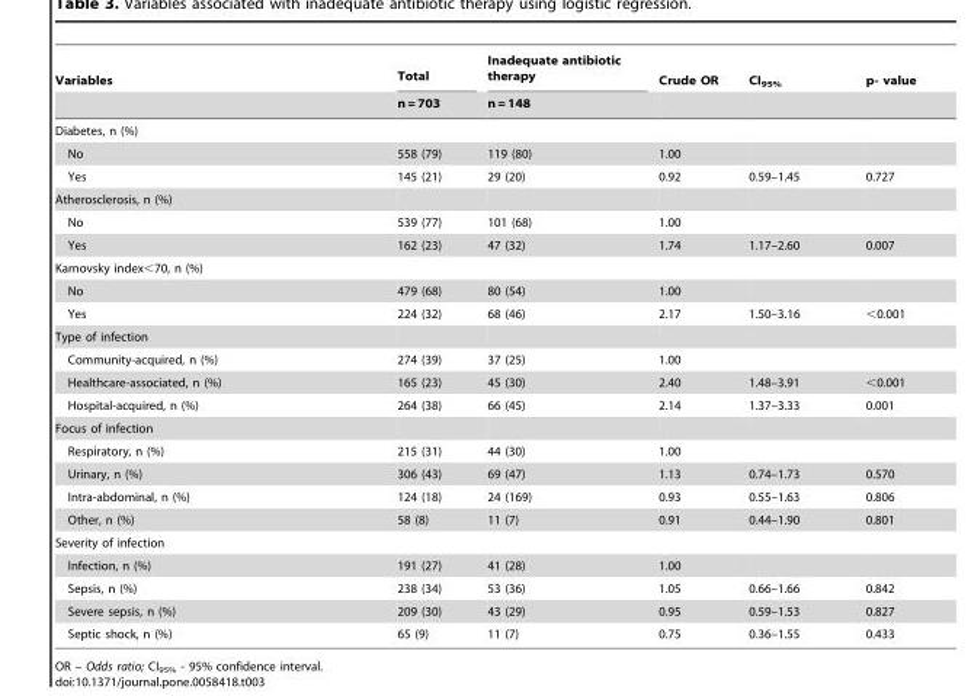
<table><thead><tr><td rowspan="2">Variables</td><td rowspan="2">Total n = 703</td><td rowspan="2">Inadequate antibiotic therapy n = 148</td><td rowspan="2">Crude OR</td><td rowspan="2">CI<sub>95%</sub></td><td rowspan="2">p- value</td></tr><tr></tr></thead><tbody><tr><td colspan="6">Diabetes, n (%)</td></tr><tr><td>No</td><td>558 (79)</td><td>119 (80)</td><td>1.00</td><td></td><td></td></tr><tr><td>Yes</td><td>145 (21)</td><td>29 (20)</td><td>0.92</td><td>0.59–1.45</td><td>0.727</td></tr><tr><td colspan="6">Atherosclerosis, n (%)</td></tr><tr><td>No</td><td>539 (77)</td><td>101 (68)</td><td>1.00</td><td></td><td></td></tr><tr><td>Yes</td><td>162 (23)</td><td>47 (32)</td><td>1.74</td><td>1.17–2.60</td><td>0.007</td></tr><tr><td colspan="6">Karnovsky index&lt;70, n (%)</td></tr><tr><td>No</td><td>479 (68)</td><td>80 (54)</td><td>1.00</td><td></td><td></td></tr><tr><td>Yes</td><td>224 (32)</td><td>68 (46)</td><td>2.17</td><td>1.50–3.16</td><td>&lt;0.001</td></tr><tr><td colspan="6">Type of infection</td></tr><tr><td>Community-acquired, n (%)</td><td>274 (39)</td><td>37 (25)</td><td>1.00</td><td></td><td></td></tr><tr><td>Healthcare-associated, n (%)</td><td>165 (23)</td><td>45 (30)</td><td>2.40</td><td>1.48–3.91</td><td>&lt;0.001</td></tr><tr><td>Hospital-acquired, n (%)</td><td>264 (38)</td><td>66 (45)</td><td>2.14</td><td>1.37–3.33</td><td>0.001</td></tr><tr><td colspan="6">Focus of infection</td></tr><tr><td>Respiratory, n (%)</td><td>215 (31)</td><td>44 (30)</td><td>1.00</td><td></td><td></td></tr><tr><td>Urinary, n (%)</td><td>306 (43)</td><td>69 (47)</td><td>1.13</td><td>0.74–1.73</td><td>0.570</td></tr><tr><td>Intra-abdominal, n (%)</td><td>124 (18)</td><td>24 (169)</td><td>0.93</td><td>0.55–1.63</td><td>0.806</td></tr><tr><td>Other, n (%)</td><td>58 (8)</td><td>11 (7)</td><td>0.91</td><td>0.44–1.90</td><td>0.801</td></tr><tr><td colspan="6">Severity of infection</td></tr><tr><td>Infection, n (%)</td><td>191 (27)</td><td>41 (28)</td><td>1.00</td><td></td><td></td></tr><tr><td>Sepsis, n (%)</td><td>238 (34)</td><td>53 (36)</td><td>1.05</td><td>0.66–1.66</td><td>0.842</td></tr><tr><td>Severe sepsis, n (%)</td><td>209 (30)</td><td>43 (29)</td><td>0.95</td><td>0.59–1.53</td><td>0.827</td></tr><tr><td>Septic shock, n (%)</td><td>65 (9)</td><td>11 (7)</td><td>0.75</td><td>0.36–1.55</td><td>0.433</td></tr></tbody></table>